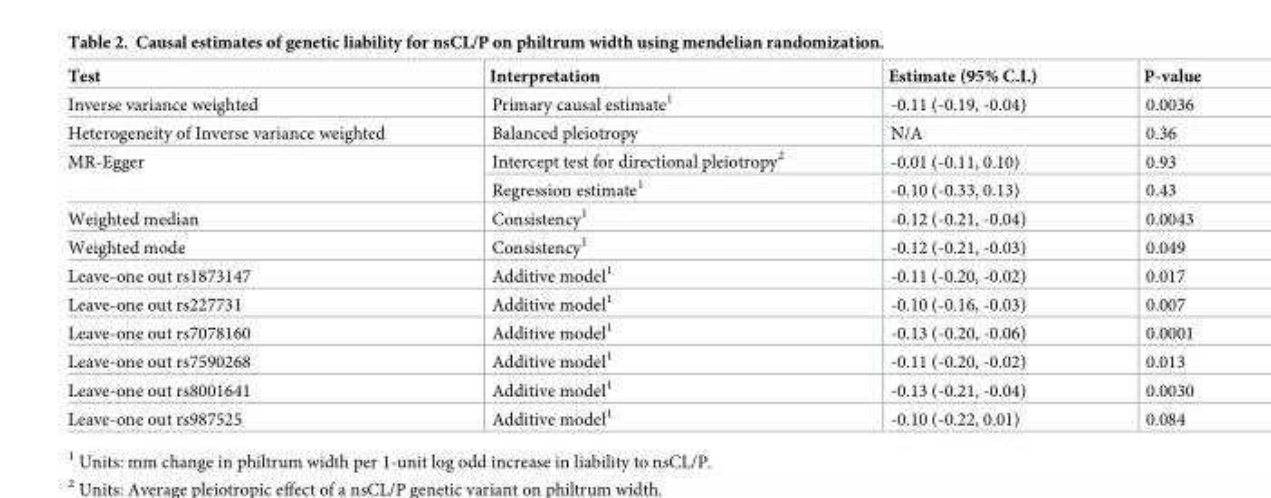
<table><thead><tr><td>Test</td><td>Interpretation</td><td>Estimate (95% C.I.)</td><td>P-value</td></tr></thead><tbody><tr><td>Inverse variance weighted</td><td>Primary causal estimate<sup>1</sup></td><td>-0.11 (-0.19, -0.04)</td><td>0.0036</td></tr><tr><td>Heterogeneity of Inverse variance weighted</td><td>Balanced pleiotropy</td><td>N/A</td><td>0.36</td></tr><tr><td rowspan="2">MR-Egger</td><td>Intercept test for directional pleiotropy<sup>2</sup></td><td>-0.01 (-0.11, 0.10)</td><td>0.93</td></tr><tr><td>Regression estimate<sup>1</sup></td><td>-0.10 (-0.33, 0.13)</td><td>0.43</td></tr><tr><td>Weighted median</td><td>Consistency<sup>1</sup></td><td>-0.12 (-0.21, -0.04)</td><td>0.0043</td></tr><tr><td>Weighted mode</td><td>Consistency<sup>1</sup></td><td>-0.12 (-0.21, -0.03)</td><td>0.049</td></tr><tr><td>Leave-one out rs1873147</td><td>Additive model<sup>1</sup></td><td>-0.11 (-0.20, -0.02)</td><td>0.017</td></tr><tr><td>Leave-one out rs227731</td><td>Additive model<sup>1</sup></td><td>-0.10 (-0.16, -0.03)</td><td>0.007</td></tr><tr><td>Leave-one out rs7078160</td><td>Additive model<sup>1</sup></td><td>-0.13 (-0.20, -0.06)</td><td>0.0001</td></tr><tr><td>Leave-one out rs7590268</td><td>Additive model<sup>1</sup></td><td>-0.11 (-0.20, -0.02)</td><td>0.013</td></tr><tr><td>Leave-one out rs8001641</td><td>Additive model<sup>1</sup></td><td>-0.13 (-0.21, -0.04)</td><td>0.0030</td></tr><tr><td>Leave-one out rs987525</td><td>Additive model<sup>1</sup></td><td>-0.10 (-0.22, 0.01)</td><td>0.084</td></tr></tbody></table>